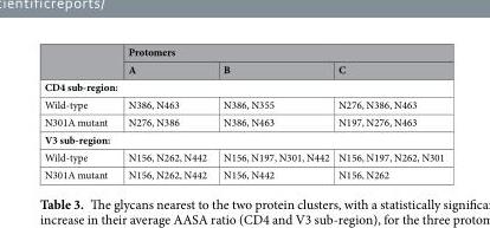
<table><thead><tr><td rowspan="2"></td><td colspan="3">Protomers</td></tr><tr><td>A</td><td>B</td><td>C</td></tr></thead><tbody><tr><td colspan="4">CD4 sub-region:</td></tr><tr><td>Wild-type</td><td>N386, N463</td><td>N386, N355</td><td>N276, N386, N463</td></tr><tr><td>N301A mutant</td><td>N276, N386</td><td>N386, N463</td><td>N197, N276, N463</td></tr><tr><td colspan="4">V3 sub-region:</td></tr><tr><td>Wild-type</td><td>N156, N262, N442</td><td>N156, N197, N301, N442</td><td>N156, N197, N262, N301</td></tr><tr><td>N301A mutant</td><td>N156, N262, N442</td><td>N156, N442</td><td>N156, N262</td></tr></tbody></table>